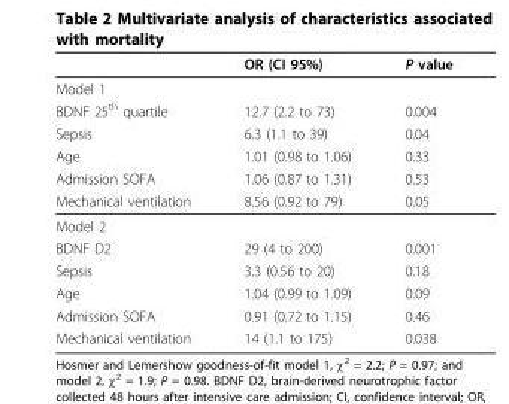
<table><thead><tr><td></td><td>OR (CI 95%)</td><td>P value</td></tr></thead><tbody><tr><td colspan="3">Model 1</td></tr><tr><td>BDNF 25<sup>th</sup> quartile</td><td>12.7 (2.2 to 73)</td><td>0.004</td></tr><tr><td>Sepsis</td><td>6.3 (1.1 to 39)</td><td>0.04</td></tr><tr><td>Age</td><td>1.01 (0.98 to 1.06)</td><td>0.33</td></tr><tr><td>Admission SOFA</td><td>1.06 (0.87 to 1.31)</td><td>0.53</td></tr><tr><td>Mechanical ventilation</td><td>8.56 (0.92 to 79)</td><td>0.05</td></tr><tr><td colspan="3">Model 2</td></tr><tr><td>BDNF D2</td><td>29 (4 to 200)</td><td>0.001</td></tr><tr><td>Sepsis</td><td>3.3 (0.56 to 20)</td><td>0.18</td></tr><tr><td>Age</td><td>1.04 (0.99 to 1.09)</td><td>0.09</td></tr><tr><td>Admission SOFA</td><td>0.91 (0.72 to 1.15)</td><td>0.46</td></tr><tr><td>Mechanical ventilation</td><td>14 (1.1 to 175)</td><td>0.038</td></tr></tbody></table>